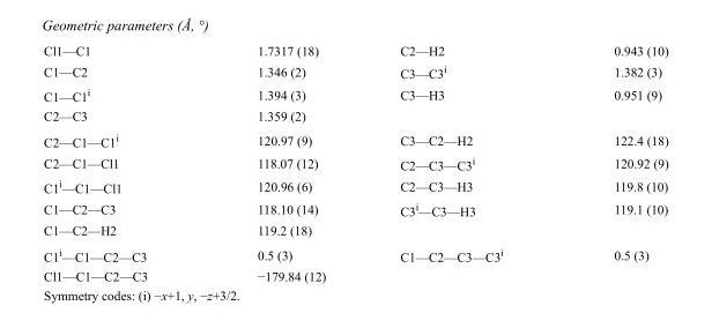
<table><tbody><tr><td>Cl1—C1</td><td>1.7317 (18)</td><td>C2—H2</td><td>0.943 (10)</td></tr><tr><td>C1—C2</td><td>1.346 (2)</td><td>C3—C3<sup>i</sup></td><td>1.382 (3)</td></tr><tr><td>C1—C1<sup>i</sup></td><td>1.394 (3)</td><td>C3—H3</td><td>0.951 (9)</td></tr><tr><td>C2—C3</td><td>1.359 (2)</td><td></td><td></td></tr><tr><td>C2—C1—C1<sup>i</sup></td><td>120.97 (9)</td><td>C3—C2—H2</td><td>122.4 (18)</td></tr><tr><td>C2—C1—Cl1</td><td>118.07 (12)</td><td>C2—C3—C3<sup>i</sup></td><td>120.92 (9)</td></tr><tr><td>C1<sup>i</sup>—C1—Cl1</td><td>120.96 (6)</td><td>C2—C3—H3</td><td>119.8 (10)</td></tr><tr><td>C1—C2—C3</td><td>118.10 (14)</td><td>C3<sup>i</sup>—C3—H3</td><td>119.1 (10)</td></tr><tr><td>C1—C2—H2</td><td>119.2 (18)</td><td></td><td></td></tr><tr><td>C1<sup>i</sup>—C1—C2—C3</td><td>0.5 (3)</td><td>C1—C2—C3—C3<sup>i</sup></td><td>0.5 (3)</td></tr><tr><td>Cl1—C1—C2—C3</td><td>−179.84 (12)</td><td></td><td></td></tr></tbody></table>